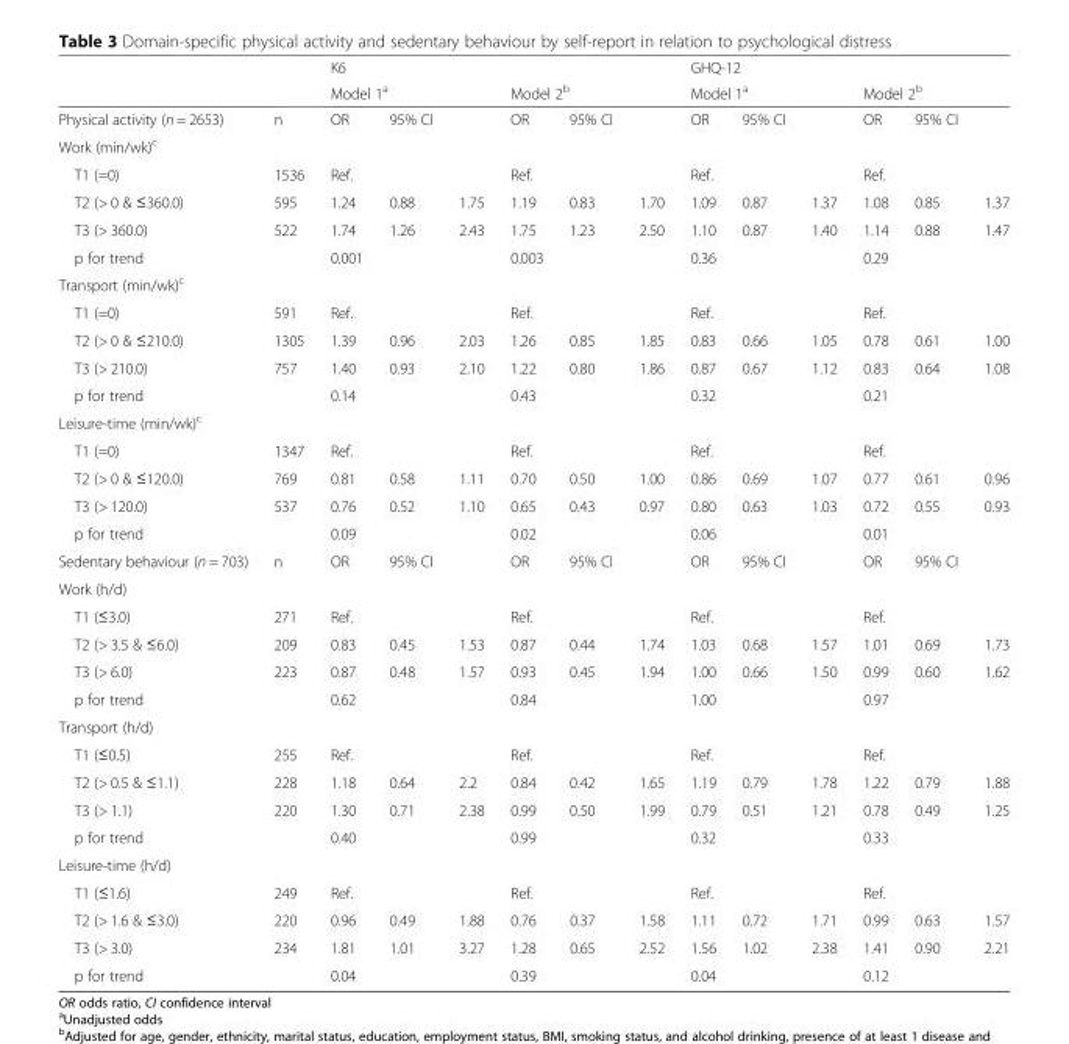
<table><thead><tr><td rowspan="3">Physical activity (n = 2653)</td><td rowspan="3">n</td><td rowspan="2" colspan="3">K6 Model 1<sup>a</sup></td><td></td><td></td><td></td><td rowspan="2" colspan="3">GHQ-12 Model 1<sup>a</sup></td><td></td><td></td><td></td></tr><tr><td colspan="3">Model 2<sup>b</sup></td><td colspan="3">Model 2<sup>b</sup></td></tr><tr><td>OR</td><td>95% CI</td><td></td><td>OR</td><td>95% CI</td><td></td><td>OR</td><td>95% CI</td><td></td><td>OR</td><td>95% CI</td><td></td></tr></thead><tbody><tr><td colspan="14">Work (min/wk)<sup>c</sup></td></tr><tr><td>T1 (=0)</td><td>1536</td><td>Ref.</td><td></td><td></td><td>Ref.</td><td></td><td></td><td>Ref.</td><td></td><td></td><td>Ref.</td><td></td><td></td></tr><tr><td>T2 (&gt; 0 &amp; ≤360.0)</td><td>595</td><td>1.24</td><td>0.88</td><td>1.75</td><td>1.19</td><td>0.83</td><td>1.70</td><td>1.09</td><td>0.87</td><td>1.37</td><td>1.08</td><td>0.85</td><td>1.37</td></tr><tr><td>T3 (&gt; 360.0)</td><td>522</td><td>1.74</td><td>1.26</td><td>2.43</td><td>1.75</td><td>1.23</td><td>2.50</td><td>1.10</td><td>0.87</td><td>1.40</td><td>1.14</td><td>0.88</td><td>1.47</td></tr><tr><td>p for trend</td><td></td><td>0.001</td><td></td><td></td><td>0.003</td><td></td><td></td><td>0.36</td><td></td><td></td><td>0.29</td><td></td><td></td></tr><tr><td colspan="14">Transport (min/wk)<sup>c</sup></td></tr><tr><td>T1 (=0)</td><td>591</td><td>Ref.</td><td></td><td></td><td>Ref.</td><td></td><td></td><td>Ref.</td><td></td><td></td><td>Ref.</td><td></td><td></td></tr><tr><td>T2 (&gt; 0 &amp; ≤210.0)</td><td>1305</td><td>1.39</td><td>0.96</td><td>2.03</td><td>1.26</td><td>0.85</td><td>1.85</td><td>0.83</td><td>0.66</td><td>1.05</td><td>0.78</td><td>0.61</td><td>1.00</td></tr><tr><td>T3 (&gt; 210.0)</td><td>757</td><td>1.40</td><td>0.93</td><td>2.10</td><td>1.22</td><td>0.80</td><td>1.86</td><td>0.87</td><td>0.67</td><td>1.12</td><td>0.83</td><td>0.64</td><td>1.08</td></tr><tr><td>p for trend</td><td></td><td>0.14</td><td></td><td></td><td>0.43</td><td></td><td></td><td>0.32</td><td></td><td></td><td>0.21</td><td></td><td></td></tr><tr><td colspan="14">Leisure-time (min/wk)<sup>c</sup></td></tr><tr><td>T1 (=0)</td><td>1347</td><td>Ref.</td><td></td><td></td><td>Ref.</td><td></td><td></td><td>Ref.</td><td></td><td></td><td>Ref.</td><td></td><td></td></tr><tr><td>T2 (&gt; 0 &amp; ≤120.0)</td><td>769</td><td>0.81</td><td>0.58</td><td>1.11</td><td>0.70</td><td>0.50</td><td>1.00</td><td>0.86</td><td>0.69</td><td>1.07</td><td>0.77</td><td>0.61</td><td>0.96</td></tr><tr><td>T3 (&gt; 120.0)</td><td>537</td><td>0.76</td><td>0.52</td><td>1.10</td><td>0.65</td><td>0.43</td><td>0.97</td><td>0.80</td><td>0.63</td><td>1.03</td><td>0.72</td><td>0.55</td><td>0.93</td></tr><tr><td>p for trend</td><td></td><td>0.09</td><td></td><td></td><td>0.02</td><td></td><td></td><td>0.06</td><td></td><td></td><td>0.01</td><td></td><td></td></tr><tr><td>Sedentary behaviour (n = 703)</td><td>n</td><td>OR</td><td>95% CI</td><td></td><td>OR</td><td>95% CI</td><td></td><td>OR</td><td>95% CI</td><td></td><td>OR</td><td>95% CI</td><td></td></tr><tr><td colspan="14">Work (h/d)</td></tr><tr><td>T1 (≤3.0)</td><td>271</td><td>Ref.</td><td></td><td></td><td>Ref.</td><td></td><td></td><td>Ref.</td><td></td><td></td><td>Ref.</td><td></td><td></td></tr><tr><td>T2 (&gt; 3.5 &amp; ≤6.0)</td><td>209</td><td>0.83</td><td>0.45</td><td>1.53</td><td>0.87</td><td>0.44</td><td>1.74</td><td>1.03</td><td>0.68</td><td>1.57</td><td>1.01</td><td>0.69</td><td>1.73</td></tr><tr><td>T3 (&gt; 6.0)</td><td>223</td><td>0.87</td><td>0.48</td><td>1.57</td><td>0.93</td><td>0.45</td><td>1.94</td><td>1.00</td><td>0.66</td><td>1.50</td><td>0.99</td><td>0.60</td><td>1.62</td></tr><tr><td>p for trend</td><td></td><td>0.62</td><td></td><td></td><td>0.84</td><td></td><td></td><td>1.00</td><td></td><td></td><td>0.97</td><td></td><td></td></tr><tr><td colspan="14">Transport (h/d)</td></tr><tr><td>T1 (≤0.5)</td><td>255</td><td>Ref.</td><td></td><td></td><td>Ref.</td><td></td><td></td><td>Ref.</td><td></td><td></td><td>Ref.</td><td></td><td></td></tr><tr><td>T2 (&gt; 0.5 &amp; ≤1.1)</td><td>228</td><td>1.18</td><td>0.64</td><td>2.2</td><td>0.84</td><td>0.42</td><td>1.65</td><td>1.19</td><td>0.79</td><td>1.78</td><td>1.22</td><td>0.79</td><td>1.88</td></tr><tr><td>T3 (&gt; 1.1)</td><td>220</td><td>1.30</td><td>0.71</td><td>2.38</td><td>0.99</td><td>0.50</td><td>1.99</td><td>0.79</td><td>0.51</td><td>1.21</td><td>0.78</td><td>0.49</td><td>1.25</td></tr><tr><td>p for trend</td><td></td><td>0.40</td><td></td><td></td><td>0.99</td><td></td><td></td><td>0.32</td><td></td><td></td><td>0.33</td><td></td><td></td></tr><tr><td colspan="14">Leisure-time (h/d)</td></tr><tr><td>T1 (≤1.6)</td><td>249</td><td>Ref.</td><td></td><td></td><td>Ref.</td><td></td><td></td><td>Ref.</td><td></td><td></td><td>Ref.</td><td></td><td></td></tr><tr><td>T2 (&gt; 1.6 &amp; ≤3.0)</td><td>220</td><td>0.96</td><td>0.49</td><td>1.88</td><td>0.76</td><td>0.37</td><td>1.58</td><td>1.11</td><td>0.72</td><td>1.71</td><td>0.99</td><td>0.63</td><td>1.57</td></tr><tr><td>T3 (&gt; 3.0)</td><td>234</td><td>1.81</td><td>1.01</td><td>3.27</td><td>1.28</td><td>0.65</td><td>2.52</td><td>1.56</td><td>1.02</td><td>2.38</td><td>1.41</td><td>0.90</td><td>2.21</td></tr><tr><td>p for trend</td><td></td><td>0.04</td><td></td><td></td><td>0.39</td><td></td><td></td><td>0.04</td><td></td><td></td><td>0.12</td><td></td><td></td></tr></tbody></table>